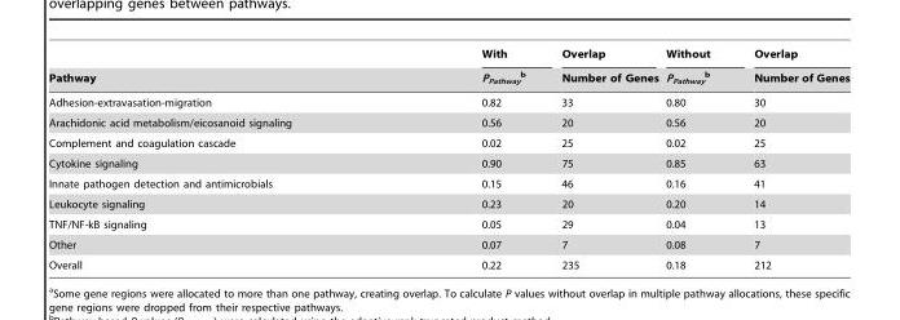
<table><thead><tr><td rowspan="2">Pathway</td><td rowspan="2">With P<sub>Pathway</sub> b</td><td rowspan="2">Overlap Number of Genes</td><td rowspan="2">Without P<sub>Pathway</sub> b</td><td rowspan="2">Overlap Number of Genes</td></tr><tr></tr></thead><tbody><tr><td>Adhesion-extravasation-migration</td><td>0.82</td><td>33</td><td>0.80</td><td>30</td></tr><tr><td>Arachidonic acid metabolism/eicosanoid signaling</td><td>0.56</td><td>20</td><td>0.56</td><td>20</td></tr><tr><td>Complement and coagulation cascade</td><td>0.02</td><td>25</td><td>0.02</td><td>25</td></tr><tr><td>Cytokine signaling</td><td>0.90</td><td>75</td><td>0.85</td><td>63</td></tr><tr><td>Innate pathogen detection and antimicrobials</td><td>0.15</td><td>46</td><td>0.16</td><td>41</td></tr><tr><td>Leukocyte signaling</td><td>0.23</td><td>20</td><td>0.20</td><td>14</td></tr><tr><td>TNF/NF-kB signaling</td><td>0.05</td><td>29</td><td>0.04</td><td>13</td></tr><tr><td>Other</td><td>0.07</td><td>7</td><td>0.08</td><td>7</td></tr><tr><td>Overall</td><td>0.22</td><td>235</td><td>0.18</td><td>212</td></tr></tbody></table>